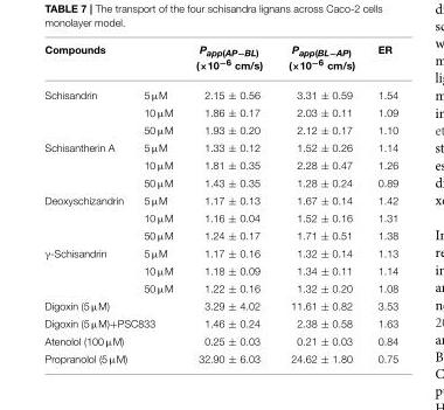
<table><thead><tr><td colspan="2">Compounds</td><td rowspan="2">Papp(AP−BL) (×10−6 cm/s) 2.15 ± 0.56</td><td rowspan="2">Papp(BL−AP) (×10−6 cm/s) 3.31 ± 0.59</td><td rowspan="2">ER 1.54</td></tr><tr><td>Schisandrin</td><td>5 µM</td></tr></thead><tbody><tr><td></td><td>10 µM</td><td>1.86 ± 0.17</td><td>2.03 ± 0.11</td><td>1.09</td></tr><tr><td></td><td>50 µM</td><td>1.93 ± 0.20</td><td>2.12 ± 0.17</td><td>1.10</td></tr><tr><td rowspan="3">Schisantherin A</td><td>5 µM</td><td>1.33 ± 0.12</td><td>1.52 ± 0.26</td><td>1.14</td></tr><tr><td>10 µM</td><td>1.81 ± 0.35</td><td>2.28 ± 0.47</td><td>1.26</td></tr><tr><td>50 µM</td><td>1.43 ± 0.35</td><td>1.28 ± 0.24</td><td>0.89</td></tr><tr><td rowspan="3">Deoxyschizandrin</td><td>5 µM</td><td>1.17 ± 0.13</td><td>1.67 ± 0.14</td><td>1.42</td></tr><tr><td>10 µM</td><td>1.16 ± 0.04</td><td>1.52 ± 0.16</td><td>1.31</td></tr><tr><td>50 µM</td><td>1.24 ± 0.17</td><td>1.71 ± 0.51</td><td>1.38</td></tr><tr><td rowspan="3">γ-Schisandrin</td><td>5 µM</td><td>1.17 ± 0.16</td><td>1.32 ± 0.14</td><td>1.13</td></tr><tr><td>10 µM</td><td>1.18 ± 0.09</td><td>1.34 ± 0.11</td><td>1.14</td></tr><tr><td>50 µM</td><td>1.22 ± 0.16</td><td>1.32 ± 0.20</td><td>1.08</td></tr><tr><td colspan="2">Digoxin (5 µM)</td><td>3.29 ± 4.02</td><td>11.61 ± 0.82</td><td>3.53</td></tr><tr><td colspan="2">Digoxin (5 µM)+PSC833</td><td>1.46 ± 0.24</td><td>2.38 ± 0.58</td><td>1.63</td></tr><tr><td colspan="2">Atenolol (100 µM)</td><td>0.25 ± 0.03</td><td>0.21 ± 0.03</td><td>0.84</td></tr><tr><td colspan="2">Propranolol (5 µM)</td><td>32.90 ± 6.03</td><td>24.62 ± 1.80</td><td>0.75</td></tr></tbody></table>